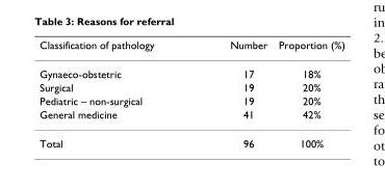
<table><thead><tr><td>Classification of pathology</td><td>Number</td><td>Proportion (%)</td></tr></thead><tbody><tr><td>Gynaeco-obstetric</td><td>17</td><td>18%</td></tr><tr><td>Surgical</td><td>19</td><td>20%</td></tr><tr><td>Pediatric – non-surgical</td><td>19</td><td>20%</td></tr><tr><td>General medicine</td><td>41</td><td>42%</td></tr><tr><td>Total</td><td>96</td><td>100%</td></tr></tbody></table>